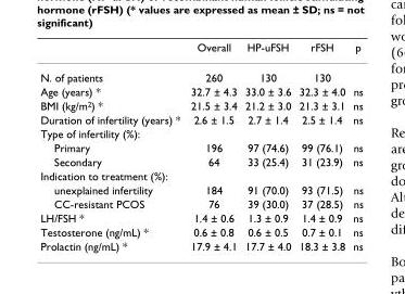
<table><thead><tr><td></td><td>Overall</td><td>HP-uFSH</td><td>rFSH</td><td>p</td></tr></thead><tbody><tr><td>N. of patients</td><td>260</td><td>130</td><td>130</td><td></td></tr><tr><td>Age (years) *</td><td>32.7 ± 4.3</td><td>33.0 ± 3.6</td><td>32.3 ± 4.0</td><td>ns</td></tr><tr><td>BMI (kg/m<sup>2</sup>) *</td><td>21.5 ± 3.4</td><td>21.2 ± 3.0</td><td>21.3 ± 3.1</td><td>ns</td></tr><tr><td>Duration of infertility (years) *</td><td>2.6 ± 1.5</td><td>2.7 ± 1.4</td><td>2.5 ± 1.4</td><td>ns</td></tr><tr><td colspan="5">Type of infertility (%):</td></tr><tr><td>Primary</td><td>196</td><td>97 (74.6)</td><td>99 (76.1)</td><td>ns</td></tr><tr><td>Secondary</td><td>64</td><td>33 (25.4)</td><td>31 (23.9)</td><td>ns</td></tr><tr><td colspan="5">Indication to treatment (%):</td></tr><tr><td>unexplained infertility</td><td>184</td><td>91 (70.0)</td><td>93 (71.5)</td><td>ns</td></tr><tr><td>CC-resistant PCOS</td><td>76</td><td>39 (30.0)</td><td>37 (28.5)</td><td>ns</td></tr><tr><td>LH/FSH *</td><td>1.4 ± 0.6</td><td>1.3 ± 0.9</td><td>1.4 ± 0.9</td><td>ns</td></tr><tr><td>Testosterone (ng/mL) *</td><td>0.6 ± 0.8</td><td>0.6 ± 0.5</td><td>0.7 ± 0.1</td><td>ns</td></tr><tr><td>Prolactin (ng/mL) *</td><td>17.9 ± 4.1</td><td>17.7 ± 4.0</td><td>18.3 ± 3.8</td><td>ns</td></tr></tbody></table>